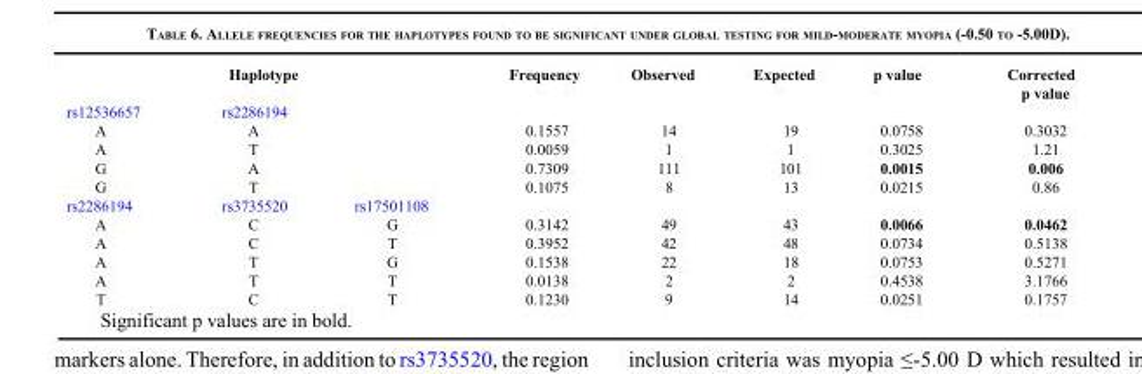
<table><thead><tr><td colspan="3">Haplotype</td><td>Frequency</td><td>Observed</td><td>Expected</td><td>p value</td><td>Corrected p value</td></tr><tr><td rowspan="2">rs12536657 A</td><td rowspan="2">rs2286194 A</td><td colspan="6"></td></tr><tr><td></td><td>0.1557</td><td>14</td><td>19</td><td>0.0758</td><td>0.3032</td></tr></thead><tbody><tr><td>A</td><td>T</td><td></td><td>0.0059</td><td>1</td><td>1</td><td>0.3025</td><td>1.21</td></tr><tr><td>G</td><td>A</td><td></td><td>0.7309</td><td>111</td><td>101</td><td>0.0015</td><td>0.006</td></tr><tr><td>G</td><td>T</td><td></td><td>0.1075</td><td>8</td><td>13</td><td>0.0215</td><td>0.86</td></tr><tr><td>rs2286194</td><td>rs3735520</td><td>rs17501108</td><td colspan="5"></td></tr><tr><td>A</td><td>C</td><td>G</td><td>0.3142</td><td>49</td><td>43</td><td>0.0066</td><td>0.0462</td></tr><tr><td>A</td><td>C</td><td>T</td><td>0.3952</td><td>42</td><td>48</td><td>0.0734</td><td>0.5138</td></tr><tr><td>A</td><td>T</td><td>G</td><td>0.1538</td><td>22</td><td>18</td><td>0.0753</td><td>0.5271</td></tr><tr><td>A</td><td>T</td><td>T</td><td>0.0138</td><td>2</td><td>2</td><td>0.4538</td><td>3.1766</td></tr><tr><td>T</td><td>C</td><td>T</td><td>0.1230</td><td>9</td><td>14</td><td>0.0251</td><td>0.1757</td></tr></tbody></table>